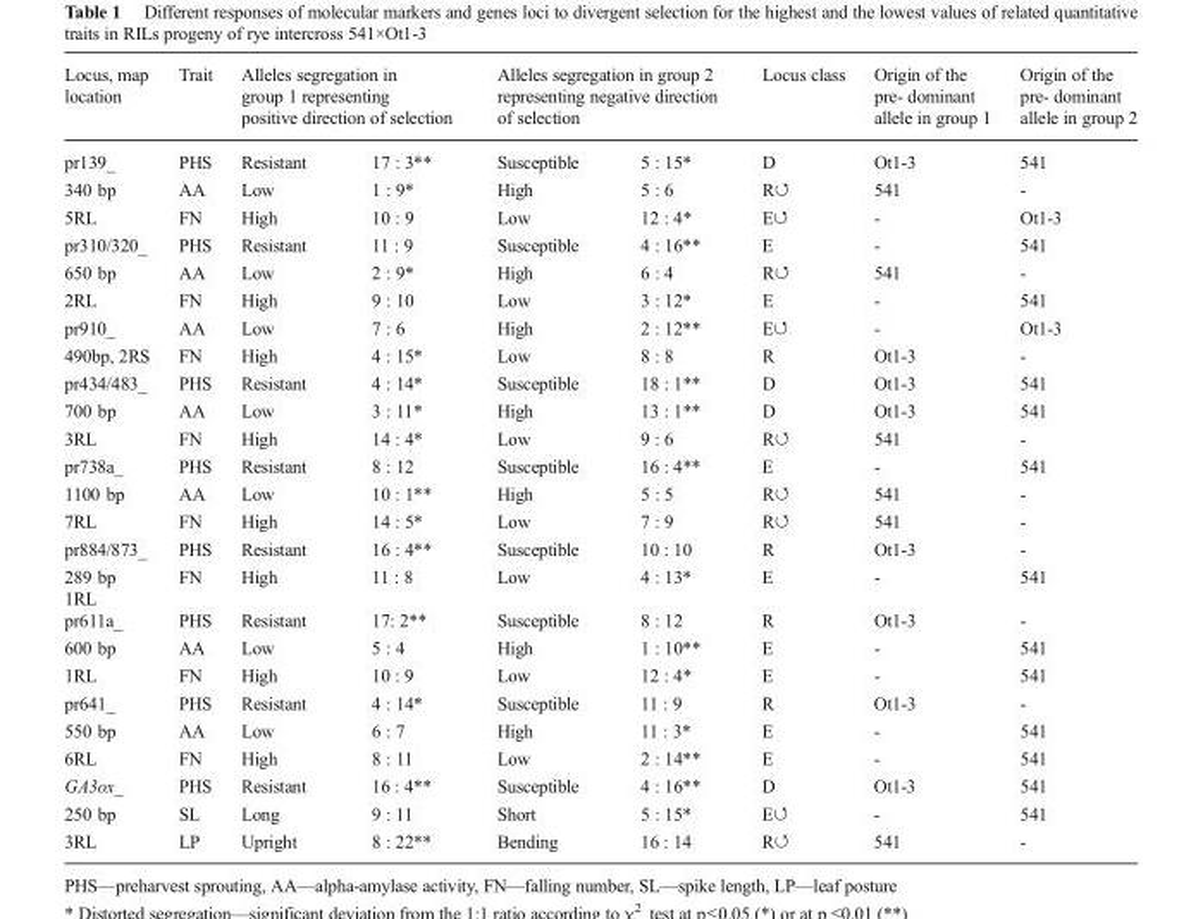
<table><thead><tr><td rowspan="2">Locus, map location pr139_</td><td rowspan="2">Trait PHS</td><td colspan="2">Alleles segregation in group 1 representing positive direction of selection</td><td colspan="2">Alleles segregation in group 2 representing negative direction of selection</td><td rowspan="2">Locus class D</td><td rowspan="2">Origin of the pre- dominant allele in group 1 Ot1-3</td><td rowspan="2">Origin of the pre- dominant allele in group 2 541</td></tr><tr><td>Resistant</td><td>17 : 3**</td><td>Susceptible</td><td>5 : 15*</td></tr></thead><tbody><tr><td>340 bp</td><td>AA</td><td>Low</td><td>1 : 9*</td><td>High</td><td>5 : 6</td><td>R↺</td><td>541</td><td>-</td></tr><tr><td>5RL</td><td>FN</td><td>High</td><td>10 : 9</td><td>Low</td><td>12 : 4*</td><td>E↺</td><td>-</td><td>Ot1-3</td></tr><tr><td>pr310/320_</td><td>PHS</td><td>Resistant</td><td>11 : 9</td><td>Susceptible</td><td>4 : 16**</td><td>E</td><td>-</td><td>541</td></tr><tr><td>650 bp</td><td>AA</td><td>Low</td><td>2 : 9*</td><td>High</td><td>6 : 4</td><td>R↺</td><td>541</td><td>-</td></tr><tr><td>2RL</td><td>FN</td><td>High</td><td>9 : 10</td><td>Low</td><td>3 : 12*</td><td>E</td><td>-</td><td>541</td></tr><tr><td>pr910_</td><td>AA</td><td>Low</td><td>7 : 6</td><td>High</td><td>2 : 12**</td><td>E↺</td><td>-</td><td>Ot1-3</td></tr><tr><td>490bp, 2RS</td><td>FN</td><td>High</td><td>4 : 15*</td><td>Low</td><td>8 : 8</td><td>R</td><td>Ot1-3</td><td>-</td></tr><tr><td>pr434/483_</td><td>PHS</td><td>Resistant</td><td>4 : 14*</td><td>Susceptible</td><td>18 : 1**</td><td>D</td><td>Ot1-3</td><td>541</td></tr><tr><td>700 bp</td><td>AA</td><td>Low</td><td>3 : 11*</td><td>High</td><td>13 : 1**</td><td>D</td><td>Ot1-3</td><td>541</td></tr><tr><td>3RL</td><td>FN</td><td>High</td><td>14 : 4*</td><td>Low</td><td>9 : 6</td><td>R↺</td><td>541</td><td>-</td></tr><tr><td>pr738a_</td><td>PHS</td><td>Resistant</td><td>8 : 12</td><td>Susceptible</td><td>16 : 4**</td><td>E</td><td>-</td><td>541</td></tr><tr><td>1100 bp</td><td>AA</td><td>Low</td><td>10 : 1**</td><td>High</td><td>5 : 5</td><td>R↺</td><td>541</td><td>-</td></tr><tr><td>7RL</td><td>FN</td><td>High</td><td>14 : 5*</td><td>Low</td><td>7 : 9</td><td>R↺</td><td>541</td><td>-</td></tr><tr><td>pr884/873_</td><td>PHS</td><td>Resistant</td><td>16 : 4**</td><td>Susceptible</td><td>10 : 10</td><td>R</td><td>Ot1-3</td><td>-</td></tr><tr><td>289 bp 1RL</td><td>FN</td><td>High</td><td>11 : 8</td><td>Low</td><td>4 : 13*</td><td>E</td><td>-</td><td>541</td></tr><tr><td>pr611a_</td><td>PHS</td><td>Resistant</td><td>17: 2**</td><td>Susceptible</td><td>8 : 12</td><td>R</td><td>Ot1-3</td><td>-</td></tr><tr><td>600 bp</td><td>AA</td><td>Low</td><td>5 : 4</td><td>High</td><td>1 : 10**</td><td>E</td><td>-</td><td>541</td></tr><tr><td>1RL</td><td>FN</td><td>High</td><td>10 : 9</td><td>Low</td><td>12 : 4*</td><td>E</td><td>-</td><td>541</td></tr><tr><td>pr641_</td><td>PHS</td><td>Resistant</td><td>4 : 14*</td><td>Susceptible</td><td>11 : 9</td><td>R</td><td>Ot1-3</td><td>-</td></tr><tr><td>550 bp</td><td>AA</td><td>Low</td><td>6 : 7</td><td>High</td><td>11 : 3*</td><td>E</td><td>-</td><td>541</td></tr><tr><td>6RL</td><td>FN</td><td>High</td><td>8 : 11</td><td>Low</td><td>2 : 14**</td><td>E</td><td>-</td><td>541</td></tr><tr><td>GA3ox_</td><td>PHS</td><td>Resistant</td><td>16 : 4**</td><td>Susceptible</td><td>4 : 16**</td><td>D</td><td>Ot1-3</td><td>541</td></tr><tr><td>250 bp</td><td>SL</td><td>Long</td><td>9 : 11</td><td>Short</td><td>5 : 15*</td><td>E↺</td><td>-</td><td>541</td></tr><tr><td>3RL</td><td>LP</td><td>Upright</td><td>8 : 22**</td><td>Bending</td><td>16 : 14</td><td>R↺</td><td>541</td><td>-</td></tr></tbody></table>